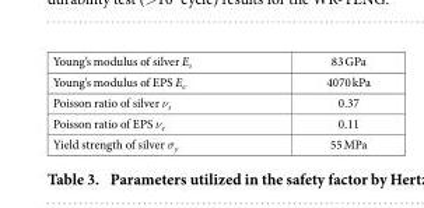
<table><tbody><tr><td>Young’s modulus of silver E<sub>s</sub></td><td>83 GPa</td></tr><tr><td>Young’s modulus of EPS E<sub>e</sub></td><td>4070 kPa</td></tr><tr><td>Poisson ratio of silver ν<sub>s</sub></td><td>0.37</td></tr><tr><td>Poisson ratio of EPS ν<sub>e</sub></td><td>0.11</td></tr><tr><td>Yield strength of silver σ<sub>y</sub></td><td>55 MPa</td></tr></tbody></table>